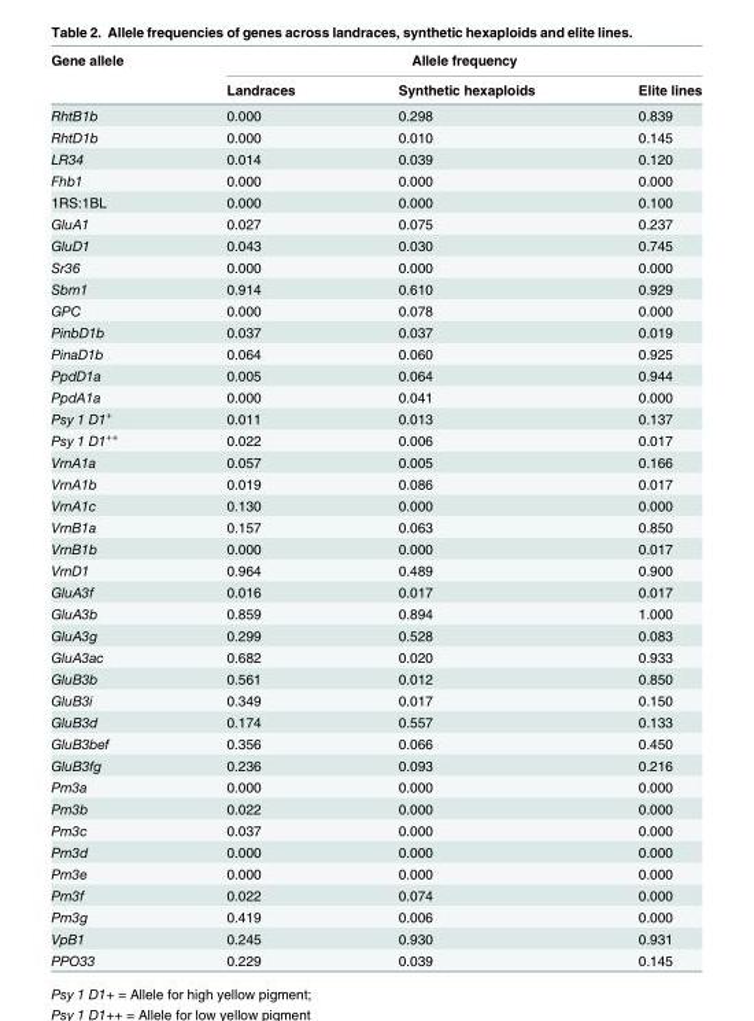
<table><thead><tr><td rowspan="2">Gene allele</td><td colspan="3">Allele frequency</td></tr><tr><td>Landraces</td><td>Synthetic hexaploids</td><td>Elite lines</td></tr></thead><tbody><tr><td>RhtB1b</td><td>0.000</td><td>0.298</td><td>0.839</td></tr><tr><td>RhtD1b</td><td>0.000</td><td>0.010</td><td>0.145</td></tr><tr><td>LR34</td><td>0.014</td><td>0.039</td><td>0.120</td></tr><tr><td>Fhb1</td><td>0.000</td><td>0.000</td><td>0.000</td></tr><tr><td>1RS:1BL</td><td>0.000</td><td>0.000</td><td>0.100</td></tr><tr><td>GluA1</td><td>0.027</td><td>0.075</td><td>0.237</td></tr><tr><td>GluD1</td><td>0.043</td><td>0.030</td><td>0.745</td></tr><tr><td>Sr36</td><td>0.000</td><td>0.000</td><td>0.000</td></tr><tr><td>Sbm1</td><td>0.914</td><td>0.610</td><td>0.929</td></tr><tr><td>GPC</td><td>0.000</td><td>0.078</td><td>0.000</td></tr><tr><td>PinbD1b</td><td>0.037</td><td>0.037</td><td>0.019</td></tr><tr><td>PinaD1b</td><td>0.064</td><td>0.060</td><td>0.925</td></tr><tr><td>PpdD1a</td><td>0.005</td><td>0.064</td><td>0.944</td></tr><tr><td>PpdA1a</td><td>0.000</td><td>0.041</td><td>0.000</td></tr><tr><td>Psy 1 D1<sup>+</sup></td><td>0.011</td><td>0.013</td><td>0.137</td></tr><tr><td>Psy 1 D1<sup>++</sup></td><td>0.022</td><td>0.006</td><td>0.017</td></tr><tr><td>VrnA1a</td><td>0.057</td><td>0.005</td><td>0.166</td></tr><tr><td>VrnA1b</td><td>0.019</td><td>0.086</td><td>0.017</td></tr><tr><td>VrnA1c</td><td>0.130</td><td>0.000</td><td>0.000</td></tr><tr><td>VrnB1a</td><td>0.157</td><td>0.063</td><td>0.850</td></tr><tr><td>VrnB1b</td><td>0.000</td><td>0.000</td><td>0.017</td></tr><tr><td>VrnD1</td><td>0.964</td><td>0.489</td><td>0.900</td></tr><tr><td>GluA3f</td><td>0.016</td><td>0.017</td><td>0.017</td></tr><tr><td>GluA3b</td><td>0.859</td><td>0.894</td><td>1.000</td></tr><tr><td>GluA3g</td><td>0.299</td><td>0.528</td><td>0.083</td></tr><tr><td>GluA3ac</td><td>0.682</td><td>0.020</td><td>0.933</td></tr><tr><td>GluB3b</td><td>0.561</td><td>0.012</td><td>0.850</td></tr><tr><td>GluB3i</td><td>0.349</td><td>0.017</td><td>0.150</td></tr><tr><td>GluB3d</td><td>0.174</td><td>0.557</td><td>0.133</td></tr><tr><td>GluB3bef</td><td>0.356</td><td>0.066</td><td>0.450</td></tr><tr><td>GluB3fg</td><td>0.236</td><td>0.093</td><td>0.216</td></tr><tr><td>Pm3a</td><td>0.000</td><td>0.000</td><td>0.000</td></tr><tr><td>Pm3b</td><td>0.022</td><td>0.000</td><td>0.000</td></tr><tr><td>Pm3c</td><td>0.037</td><td>0.000</td><td>0.000</td></tr><tr><td>Pm3d</td><td>0.000</td><td>0.000</td><td>0.000</td></tr><tr><td>Pm3e</td><td>0.000</td><td>0.000</td><td>0.000</td></tr><tr><td>Pm3f</td><td>0.022</td><td>0.074</td><td>0.000</td></tr><tr><td>Pm3g</td><td>0.419</td><td>0.006</td><td>0.000</td></tr><tr><td>VpB1</td><td>0.245</td><td>0.930</td><td>0.931</td></tr><tr><td>PPO33</td><td>0.229</td><td>0.039</td><td>0.145</td></tr></tbody></table>